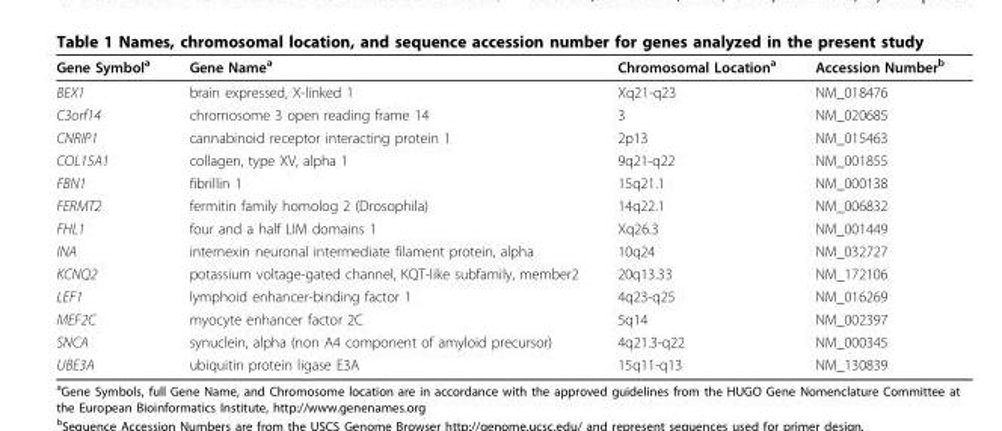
<table><thead><tr><td>Gene Symbol<sup>a</sup></td><td>Gene Name<sup>a</sup></td><td>Chromosomal Location<sup>a</sup></td><td>Accession Number<sup>b</sup></td></tr></thead><tbody><tr><td>BEX1</td><td>brain expressed, X-linked 1</td><td>Xq21-q23</td><td>NM_018476</td></tr><tr><td>C3orf14</td><td>chromosome 3 open reading frame 14</td><td>3</td><td>NM_020685</td></tr><tr><td>CNRIP1</td><td>cannabinoid receptor interacting protein 1</td><td>2p13</td><td>NM_015463</td></tr><tr><td>COL15A1</td><td>collagen, type XV, alpha 1</td><td>9q21-q22</td><td>NM_001855</td></tr><tr><td>FBN1</td><td>fibrillin 1</td><td>15q21.1</td><td>NM_000138</td></tr><tr><td>FERMT2</td><td>fermitin family homolog 2 (Drosophila)</td><td>14q22.1</td><td>NM_006832</td></tr><tr><td>FHL1</td><td>four and a half LIM domains 1</td><td>Xq26.3</td><td>NM_001449</td></tr><tr><td>INA</td><td>internexin neuronal intermediate filament protein, alpha</td><td>10q24</td><td>NM_032727</td></tr><tr><td>KCNQ2</td><td>potassium voltage-gated channel, KQT-like subfamily, member2</td><td>20q13.33</td><td>NM_172106</td></tr><tr><td>LEF1</td><td>lymphoid enhancer-binding factor 1</td><td>4q23-q25</td><td>NM_016269</td></tr><tr><td>MEF2C</td><td>myocyte enhancer factor 2C</td><td>5q14</td><td>NM_002397</td></tr><tr><td>SNCA</td><td>synuclein, alpha (non A4 component of amyloid precursor)</td><td>4q21.3-q22</td><td>NM_000345</td></tr><tr><td>UBE3A</td><td>ubiquitin protein ligase E3A</td><td>15q11-q13</td><td>NM_130839</td></tr></tbody></table>